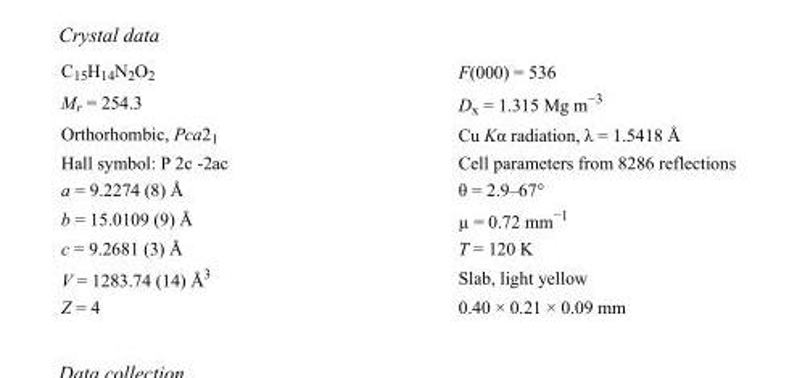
<table><tbody><tr><td>C<sub>15</sub>H<sub>14</sub>N<sub>2</sub>O<sub>2</sub></td><td>F(000) = 536</td></tr><tr><td>M<sub>r</sub> = 254.3</td><td>D<sub>x</sub> = 1.315 Mg m<sup>−3</sup></td></tr><tr><td>Orthorhombic, Pca2<sub>1</sub></td><td>Cu Kα radiation, λ = 1.5418 Å</td></tr><tr><td>Hall symbol: P 2c -2ac</td><td>Cell parameters from 8286 reflections</td></tr><tr><td>a = 9.2274 (8) Å</td><td>θ = 2.9–67°</td></tr><tr><td>b = 15.0109 (9) Å</td><td>µ = 0.72 mm<sup>−1</sup></td></tr><tr><td>c = 9.2681 (3) Å</td><td>T = 120 K</td></tr><tr><td>V = 1283.74 (14) Å<sup>3</sup></td><td>Slab, light yellow</td></tr><tr><td>Z = 4</td><td>0.40 × 0.21 × 0.09 mm</td></tr></tbody></table>